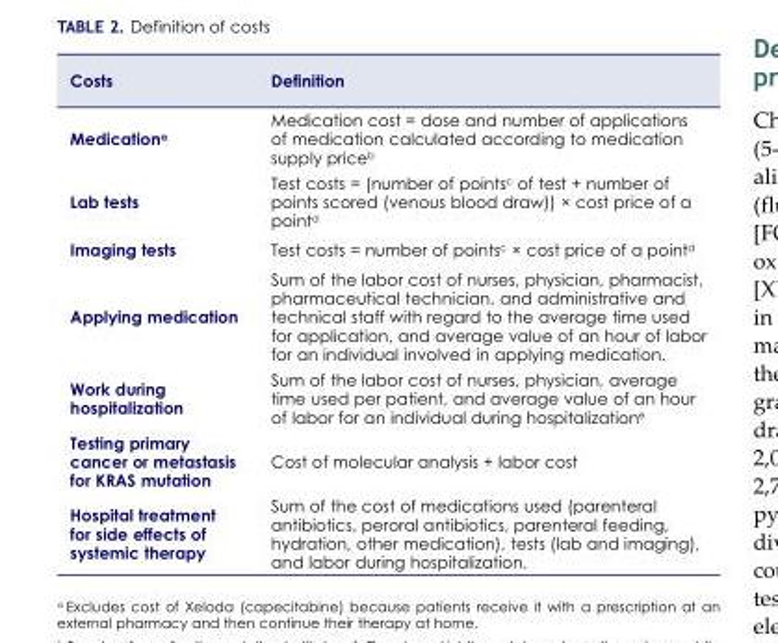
<table><thead><tr><td>Costs</td><td>Definition</td></tr></thead><tbody><tr><td>Medication<sup>a</sup></td><td>Medication cost = dose and number of applications of medication calculated according to medication supply price<sup>b</sup></td></tr><tr><td>Lab tests</td><td>Test costs = (number of points<sup>c</sup> of test + number of points scored (venous blood draw)) × cost price of a point<sup>d</sup></td></tr><tr><td>Imaging tests</td><td>Test costs = number of points<sup>c</sup> × cost price of a point<sup>d</sup></td></tr><tr><td>Applying medication</td><td>Sum of the labor cost of nurses, physician, pharmacist, pharmaceutical technician, and administrative and technical staff with regard to the average time used for application, and average value of an hour of labor for an individual involved in applying medication.</td></tr><tr><td>Work during hospitalization</td><td>Sum of the labor cost of nurses, physician, average time used per patient, and average value of an hour of labor for an individual during hospitalization<sup>e</sup></td></tr><tr><td>Testing primary cancer or metastasis for KRAS mutation</td><td>Cost of molecular analysis + labor cost</td></tr><tr><td>Hospital treatment for side effects of systemic therapy</td><td>Sum of the cost of medications used (parenteral antibiotics, peroral antibiotics, parenteral feeding, hydration, other medication), tests (lab and imaging), and labor during hospitalization.</td></tr></tbody></table>